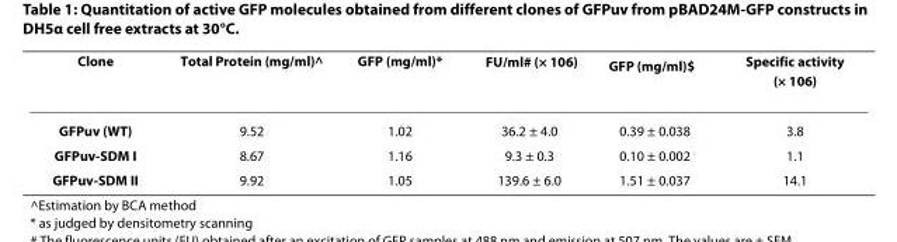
<table><thead><tr><td>Clone</td><td>Total Protein (mg/ml)^</td><td>GFP (mg/ml)*</td><td>FU/ml<sup>#</sup> (× 10<sup>6</sup>)</td><td>GFP (mg/ml)<sup>$</sup></td><td>Specific activity (× 10<sup>6</sup>)</td></tr></thead><tbody><tr><td>GFPuv (WT)</td><td>9.52</td><td>1.02</td><td>36.2 ± 4.0</td><td>0.39 ± 0.038</td><td>3.8</td></tr><tr><td>GFPuv-SDM I</td><td>8.67</td><td>1.16</td><td>9.3 ± 0.3</td><td>0.10 ± 0.002</td><td>1.1</td></tr><tr><td>GFPuv-SDM II</td><td>9.92</td><td>1.05</td><td>139.6 ± 6.0</td><td>1.51 ± 0.037</td><td>14.1</td></tr></tbody></table>